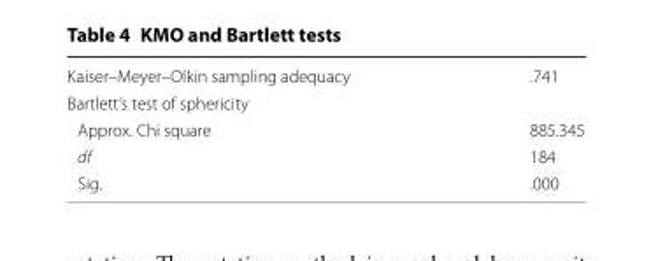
<table><tbody><tr><td>Kaiser–Meyer–Olkin sampling adequacy</td><td>.741</td></tr><tr><td colspan="2">Bartlett’s test of sphericity</td></tr><tr><td>Approx. Chi square</td><td>885.345</td></tr><tr><td>df</td><td>184</td></tr><tr><td>Sig.</td><td>.000</td></tr></tbody></table>